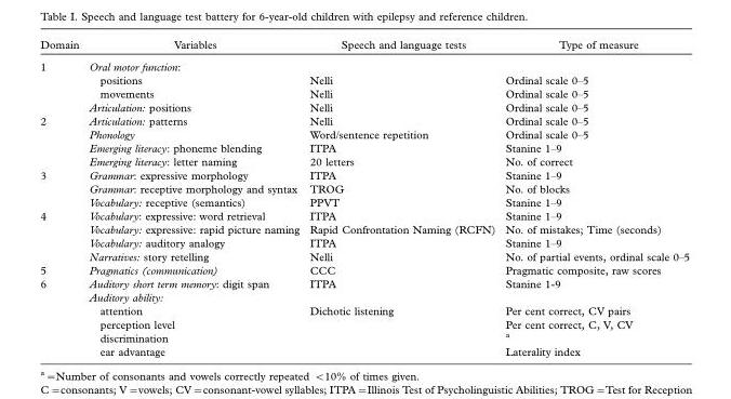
<table><thead><tr><td>Domain</td><td>Variables</td><td>Speech and language tests</td><td>Type of measure</td></tr></thead><tbody><tr><td rowspan="4">1</td><td colspan="3">Oral motor function:</td></tr><tr><td>positions</td><td>Nelli</td><td>Ordinal scale 0–5</td></tr><tr><td>movements</td><td>Nelli</td><td>Ordinal scale 0–5</td></tr><tr><td>Articulation: positions</td><td>Nelli</td><td>Ordinal scale 0–5</td></tr><tr><td rowspan="4">2</td><td>Articulation: patterns</td><td>Nelli</td><td>Ordinal scale 0–5</td></tr><tr><td>Phonology</td><td>Word/sentence repetition</td><td>Ordinal scale 0–5</td></tr><tr><td>Emerging literacy: phoneme blending</td><td>ITPA</td><td>Stanine 1–9</td></tr><tr><td>Emerging literacy: letter naming</td><td>20 letters</td><td>No. of correct</td></tr><tr><td rowspan="3">3</td><td>Grammar: expressive morphology</td><td>ITPA</td><td>Stanine 1–9</td></tr><tr><td>Grammar: receptive morphology and syntax</td><td>TROG</td><td>No. of blocks</td></tr><tr><td>Vocabulary: receptive (semantics)</td><td>PPVT</td><td>Stanine 1–9</td></tr><tr><td rowspan="4">4</td><td>Vocabulary: expressive: word retrieval</td><td>ITPA</td><td>Stanine 1–9</td></tr><tr><td>Vocabulary: expressive: rapid picture naming</td><td>Rapid Confrontation Naming (RCFN)</td><td>No. of mistakes; Time (seconds)</td></tr><tr><td>Vocabulary: auditory analogy</td><td>ITPA</td><td>Stanine 1–9</td></tr><tr><td>Narratives: story retelling</td><td>Nelli</td><td>No. of partial events, ordinal scale 0–5</td></tr><tr><td>5</td><td>Pragmatics (communication)</td><td>CCC</td><td>Pragmatic composite, raw scores</td></tr><tr><td rowspan="6">6</td><td>Auditory short term memory: digit span</td><td>ITPA</td><td>Stanine 1-9</td></tr><tr><td>Auditory ability:</td><td></td><td></td></tr><tr><td>attention</td><td>Dichotic listening</td><td>Per cent correct, CV pairs</td></tr><tr><td>perception level</td><td></td><td>Per cent correct, C, V, CV</td></tr><tr><td>discrimination</td><td></td><td><sup>a</sup></td></tr><tr><td>ear advantage</td><td></td><td>Laterality index</td></tr></tbody></table>